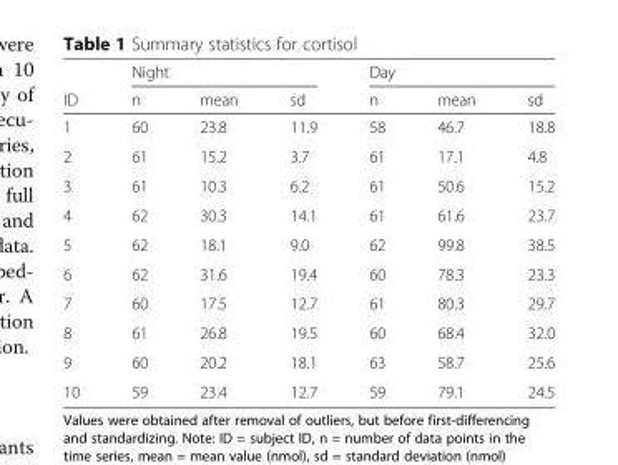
<table><thead><tr><td rowspan="2">ID</td><td colspan="3">Night</td><td colspan="3">Day</td></tr><tr><td>n</td><td>mean</td><td>sd</td><td>n</td><td>mean</td><td>sd</td></tr></thead><tbody><tr><td>1</td><td>60</td><td>23.8</td><td>11.9</td><td>58</td><td>46.7</td><td>18.8</td></tr><tr><td>2</td><td>61</td><td>15.2</td><td>3.7</td><td>61</td><td>17.1</td><td>4.8</td></tr><tr><td>3</td><td>61</td><td>10.3</td><td>6.2</td><td>61</td><td>50.6</td><td>15.2</td></tr><tr><td>4</td><td>62</td><td>30.3</td><td>14.1</td><td>61</td><td>61.6</td><td>23.7</td></tr><tr><td>5</td><td>62</td><td>18.1</td><td>9.0</td><td>62</td><td>99.8</td><td>38.5</td></tr><tr><td>6</td><td>62</td><td>31.6</td><td>19.4</td><td>60</td><td>78.3</td><td>23.3</td></tr><tr><td>7</td><td>60</td><td>17.5</td><td>12.7</td><td>61</td><td>80.3</td><td>29.7</td></tr><tr><td>8</td><td>61</td><td>26.8</td><td>19.5</td><td>60</td><td>68.4</td><td>32.0</td></tr><tr><td>9</td><td>60</td><td>20.2</td><td>18.1</td><td>63</td><td>58.7</td><td>25.6</td></tr><tr><td>10</td><td>59</td><td>23.4</td><td>12.7</td><td>59</td><td>79.1</td><td>24.5</td></tr></tbody></table>